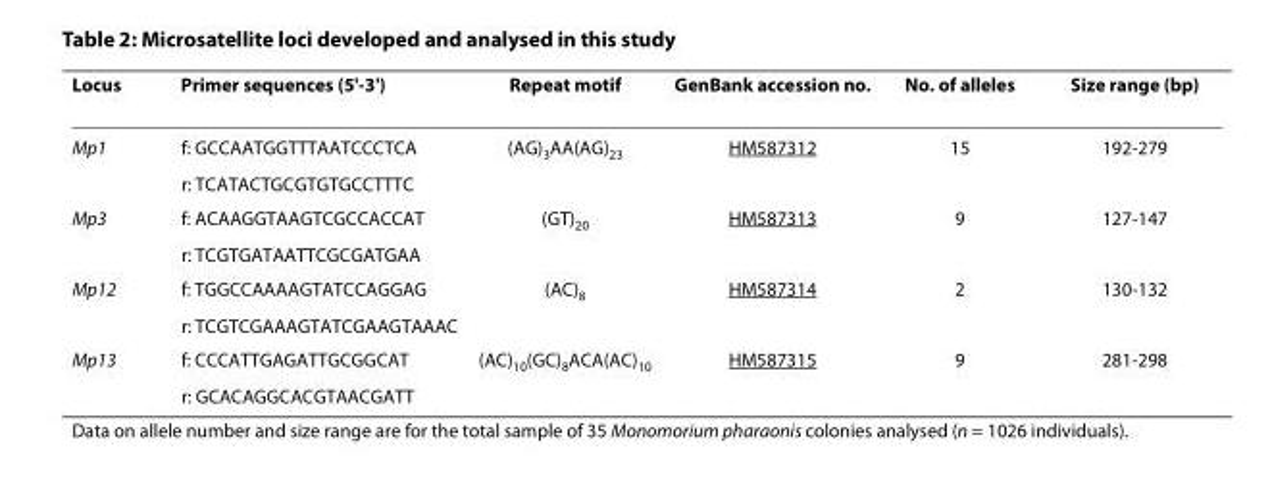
<table><thead><tr><td>Locus</td><td>Primer sequences (5&#x27;-3&#x27;)</td><td>Repeat motif</td><td>GenBank accession no.</td><td>No. of alleles</td><td>Size range (bp)</td></tr></thead><tbody><tr><td rowspan="2">Mp1</td><td>f: GCCAATGGTTTAATCCCTCA</td><td>(AG)<sub>3</sub>AA(AG)<sub>23</sub></td><td>HM587312</td><td>15</td><td>192-279</td></tr><tr><td>r: TCATACTGCGTGTGCCTTTC</td><td></td><td></td><td></td><td></td></tr><tr><td rowspan="2">Mp3</td><td>f: ACAAGGTAAGTCGCCACCAT</td><td>(GT)<sub>20</sub></td><td>HM587313</td><td>9</td><td>127-147</td></tr><tr><td>r: TCGTGATAATTCGCGATGAA</td><td></td><td></td><td></td><td></td></tr><tr><td rowspan="2">Mp12</td><td>f: TGGCCAAAAGTATCCAGGAG</td><td>(AC)<sub>8</sub></td><td>HM587314</td><td>2</td><td>130-132</td></tr><tr><td>r: TCGTCGAAAGTATCGAAGTAAAC</td><td></td><td></td><td></td><td></td></tr><tr><td rowspan="2">Mp13</td><td>f: CCCATTGAGATTGCGGCAT</td><td>(AC)<sub>10</sub>(GC)<sub>8</sub>ACA(AC)<sub>10</sub></td><td>HM587315</td><td>9</td><td>281-298</td></tr><tr><td>r: GCACAGGCACGTAACGATT</td><td></td><td></td><td></td><td></td></tr></tbody></table>